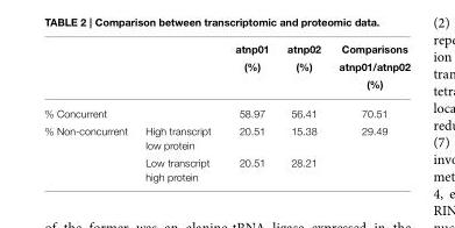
<table><thead><tr><td></td><td></td><td>atnp01 (%)</td><td>atnp02 (%)</td><td>Comparisons atnp01/atnp02 (%)</td></tr></thead><tbody><tr><td>% Concurrent</td><td></td><td>58.97</td><td>56.41</td><td>70.51</td></tr><tr><td rowspan="2">% Non-concurrent</td><td>High transcript low protein</td><td>20.51</td><td>15.38</td><td>29.49</td></tr><tr><td>Low transcript high protein</td><td>20.51</td><td>28.21</td><td></td></tr></tbody></table>